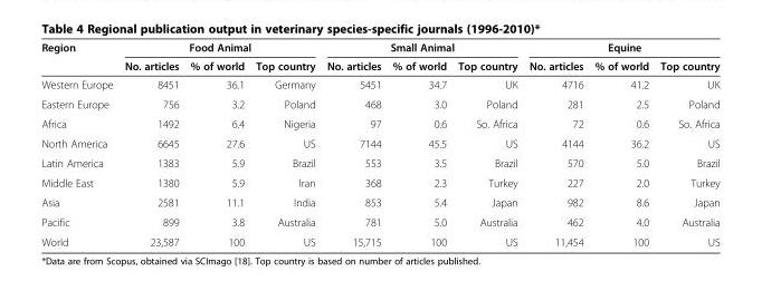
<table><thead><tr><td rowspan="2">Region</td><td colspan="3">Food Animal</td><td colspan="3">Small Animal</td><td colspan="3">Equine</td></tr><tr><td>No. articles</td><td>% of world</td><td>Top country</td><td>No. articles</td><td>% of world</td><td>Top country</td><td>No. articles</td><td>% of world</td><td>Top country</td></tr></thead><tbody><tr><td>Western Europe</td><td>8451</td><td>36.1</td><td>Germany</td><td>5451</td><td>34.7</td><td>UK</td><td>4716</td><td>41.2</td><td>UK</td></tr><tr><td>Eastern Europe</td><td>756</td><td>3.2</td><td>Poland</td><td>468</td><td>3.0</td><td>Poland</td><td>281</td><td>2.5</td><td>Poland</td></tr><tr><td>Africa</td><td>1492</td><td>6.4</td><td>Nigeria</td><td>97</td><td>0.6</td><td>So. Africa</td><td>72</td><td>0.6</td><td>So. Africa</td></tr><tr><td>North America</td><td>6645</td><td>27.6</td><td>US</td><td>7144</td><td>45.5</td><td>US</td><td>4144</td><td>36.2</td><td>US</td></tr><tr><td>Latin America</td><td>1383</td><td>5.9</td><td>Brazil</td><td>553</td><td>3.5</td><td>Brazil</td><td>570</td><td>5.0</td><td>Brazil</td></tr><tr><td>Middle East</td><td>1380</td><td>5.9</td><td>Iran</td><td>368</td><td>2.3</td><td>Turkey</td><td>227</td><td>2.0</td><td>Turkey</td></tr><tr><td>Asia</td><td>2581</td><td>11.1</td><td>India</td><td>853</td><td>5.4</td><td>Japan</td><td>982</td><td>8.6</td><td>Japan</td></tr><tr><td>Pacific</td><td>899</td><td>3.8</td><td>Australia</td><td>781</td><td>5.0</td><td>Australia</td><td>462</td><td>4.0</td><td>Australia</td></tr><tr><td>World</td><td>23,587</td><td>100</td><td>US</td><td>15,715</td><td>100</td><td>US</td><td>11,454</td><td>100</td><td>US</td></tr></tbody></table>